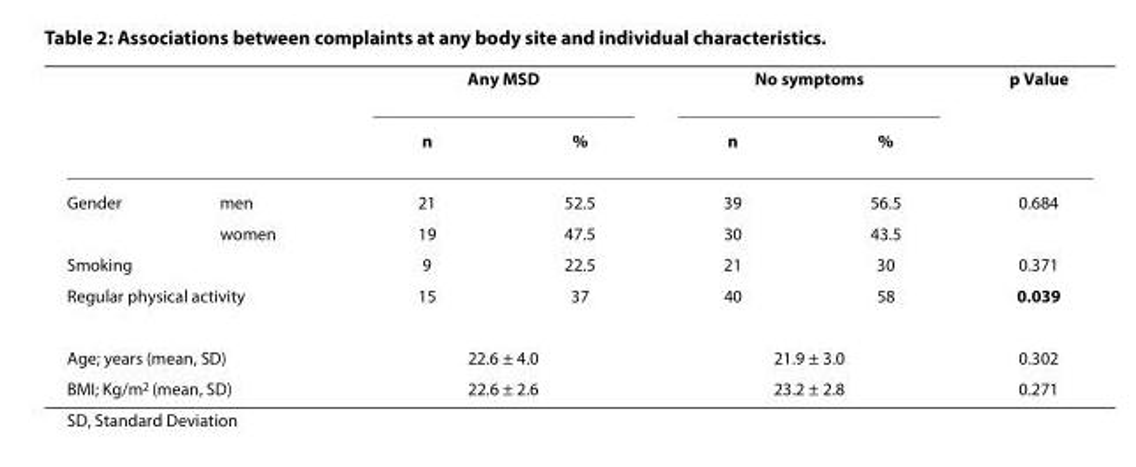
<table><thead><tr><td rowspan="2"></td><td rowspan="2"></td><td colspan="2">Any MSD</td><td colspan="2">No symptoms</td><td rowspan="2">p Value</td></tr><tr><td>n</td><td>%</td><td>n</td><td>%</td></tr></thead><tbody><tr><td rowspan="2">Gender</td><td>men</td><td>21</td><td>52.5</td><td>39</td><td>56.5</td><td>0.684</td></tr><tr><td>women</td><td>19</td><td>47.5</td><td>30</td><td>43.5</td><td></td></tr><tr><td colspan="2">Smoking</td><td>9</td><td>22.5</td><td>21</td><td>30</td><td>0.371</td></tr><tr><td colspan="2">Regular physical activity</td><td>15</td><td>37</td><td>40</td><td>58</td><td>0.039</td></tr><tr><td colspan="2">Age; years (mean, SD)</td><td colspan="2">22.6 ± 4.0</td><td colspan="2">21.9 ± 3.0</td><td>0.302</td></tr><tr><td colspan="2">BMI; Kg/m<sup>2</sup> (mean, SD)</td><td colspan="2">22.6 ± 2.6</td><td colspan="2">23.2 ± 2.8</td><td>0.271</td></tr></tbody></table>